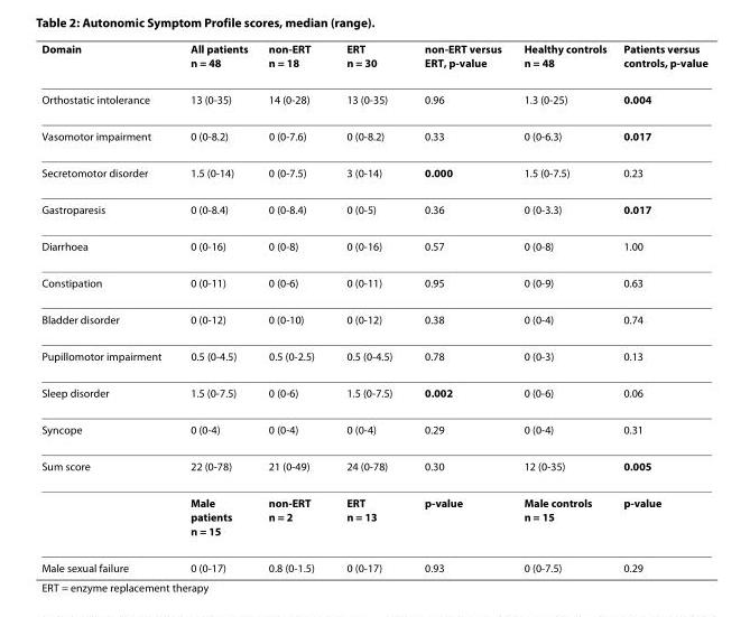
<table><thead><tr><td>Domain</td><td>All patients n = 48</td><td>non-ERT n = 18</td><td>ERT n = 30</td><td>non-ERT versus ERT, p-value</td><td>Healthy controls n = 48</td><td>Patients versus controls, p-value</td></tr></thead><tbody><tr><td>Orthostatic intolerance</td><td>13 (0-35)</td><td>14 (0-28)</td><td>13 (0-35)</td><td>0.96</td><td>1.3 (0-25)</td><td>0.004</td></tr><tr><td>Vasomotor impairment</td><td>0 (0-8.2)</td><td>0 (0-7.6)</td><td>0 (0-8.2)</td><td>0.33</td><td>0 (0-6.3)</td><td>0.017</td></tr><tr><td>Secretomotor disorder</td><td>1.5 (0-14)</td><td>0 (0-7.5)</td><td>3 (0-14)</td><td>0.000</td><td>1.5 (0-7.5)</td><td>0.23</td></tr><tr><td>Gastroparesis</td><td>0 (0-8.4)</td><td>0 (0-8.4)</td><td>0 (0-5)</td><td>0.36</td><td>0 (0-3.3)</td><td>0.017</td></tr><tr><td>Diarrhoea</td><td>0 (0-16)</td><td>0 (0-8)</td><td>0 (0-16)</td><td>0.57</td><td>0 (0-8)</td><td>1.00</td></tr><tr><td>Constipation</td><td>0 (0-11)</td><td>0 (0-6)</td><td>0 (0-11)</td><td>0.95</td><td>0 (0-9)</td><td>0.63</td></tr><tr><td>Bladder disorder</td><td>0 (0-12)</td><td>0 (0-10)</td><td>0 (0-12)</td><td>0.38</td><td>0 (0-4)</td><td>0.74</td></tr><tr><td>Pupillomotor impairment</td><td>0.5 (0-4.5)</td><td>0.5 (0-2.5)</td><td>0.5 (0-4.5)</td><td>0.78</td><td>0 (0-3)</td><td>0.13</td></tr><tr><td>Sleep disorder</td><td>1.5 (0-7.5)</td><td>0 (0-6)</td><td>1.5 (0-7.5)</td><td>0.002</td><td>0 (0-6)</td><td>0.06</td></tr><tr><td>Syncope</td><td>0 (0-4)</td><td>0 (0-4)</td><td>0 (0-4)</td><td>0.29</td><td>0 (0-4)</td><td>0.31</td></tr><tr><td rowspan="2">Sum score</td><td>22 (0-78)</td><td>21 (0-49)</td><td>24 (0-78)</td><td>0.30</td><td>12 (0-35)</td><td>0.005</td></tr><tr><td>Male patients n = 15</td><td>non-ERT n = 2</td><td>ERT n = 13</td><td>p-value</td><td>Male controls n = 15</td><td>p-value</td></tr><tr><td>Male sexual failure</td><td>0 (0-17)</td><td>0.8 (0-1.5)</td><td>0 (0-17)</td><td>0.93</td><td>0 (0-7.5)</td><td>0.29</td></tr></tbody></table>